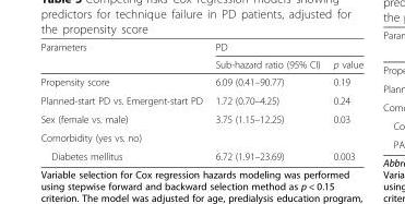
<table><thead><tr><td rowspan="2">Parameters</td><td colspan="2">PD</td></tr><tr><td>Sub-hazard ratio (95% CI)</td><td>p value</td></tr></thead><tbody><tr><td>Propensity score</td><td>6.09 (0.41–90.77)</td><td>0.19</td></tr><tr><td>Planned-start PD vs. Emergent-start PD</td><td>1.72 (0.70–4.25)</td><td>0.24</td></tr><tr><td>Sex (female vs. male)</td><td>3.75 (1.15–12.25)</td><td>0.03</td></tr><tr><td colspan="3">Comorbidity (yes vs. no)</td></tr><tr><td>Diabetes mellitus</td><td>6.72 (1.91–23.69)</td><td>0.003</td></tr></tbody></table>